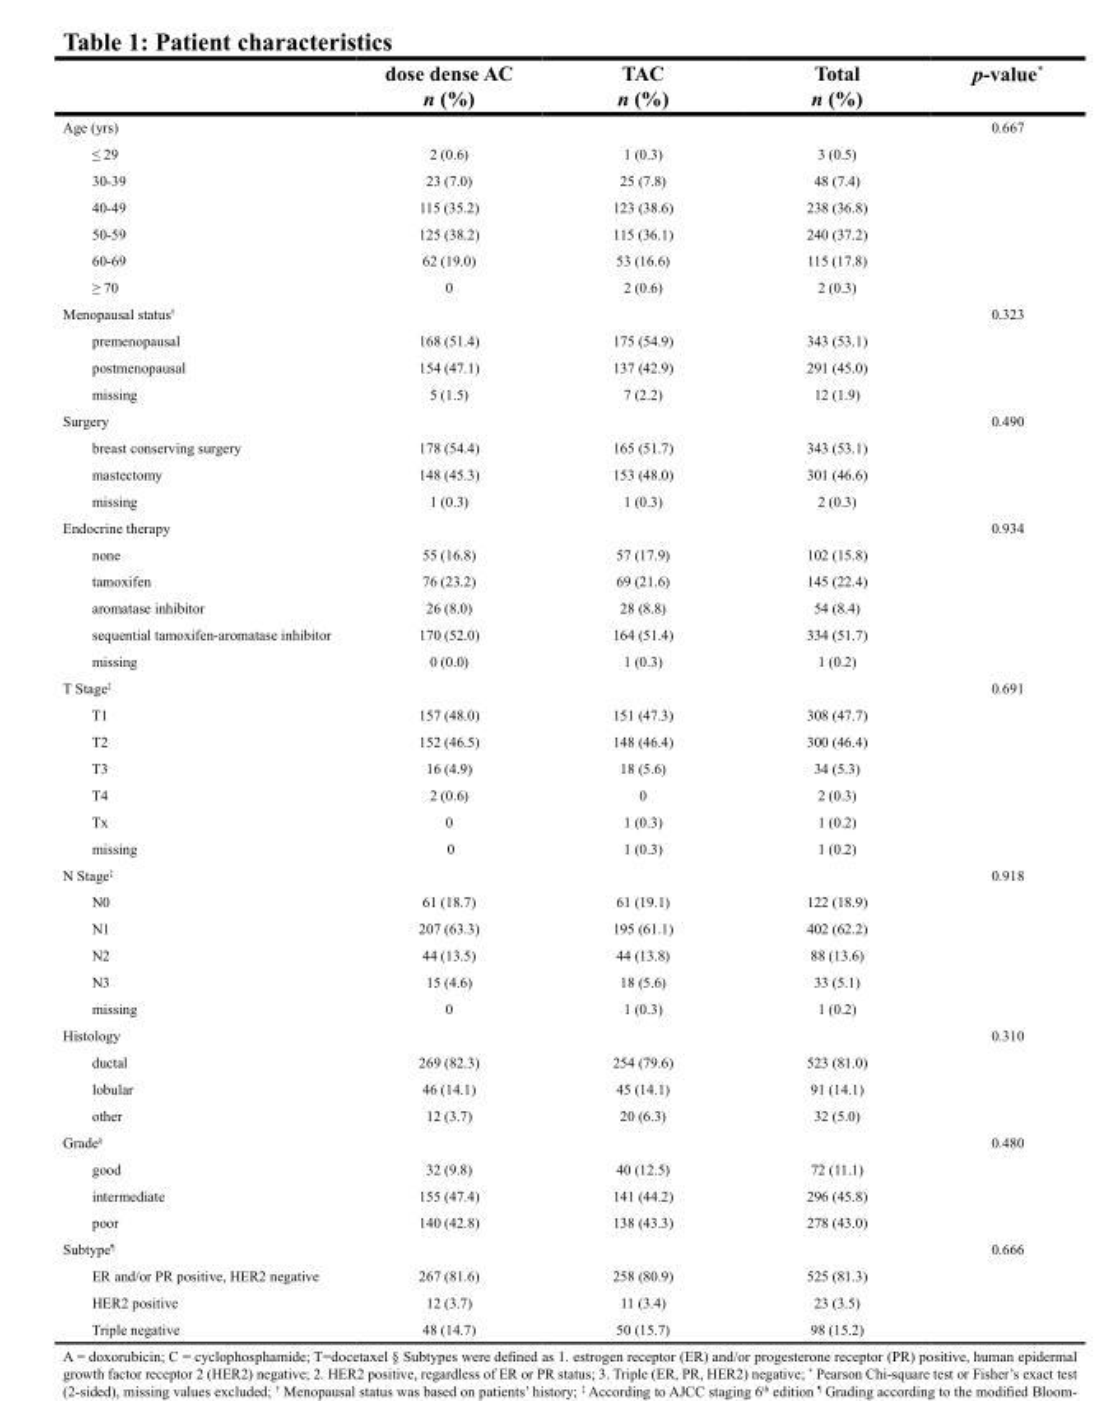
<table><thead><tr><td></td><td>dose dense AC n (%)</td><td>TAC n (%)</td><td>Total n (%)</td><td>p-value*</td></tr></thead><tbody><tr><td>Age (yrs)</td><td></td><td></td><td></td><td>0.667</td></tr><tr><td>≤ 29</td><td>2 (0.6)</td><td>1 (0.3)</td><td>3 (0.5)</td><td></td></tr><tr><td>30-39</td><td>23 (7.0)</td><td>25 (7.8)</td><td>48 (7.4)</td><td></td></tr><tr><td>40-49</td><td>115 (35.2)</td><td>123 (38.6)</td><td>238 (36.8)</td><td></td></tr><tr><td>50-59</td><td>125 (38.2)</td><td>115 (36.1)</td><td>240 (37.2)</td><td></td></tr><tr><td>60-69</td><td>62 (19.0)</td><td>53 (16.6)</td><td>115 (17.8)</td><td></td></tr><tr><td>≥ 70</td><td>0</td><td>2 (0.6)</td><td>2 (0.3)</td><td></td></tr><tr><td>Menopausal status<sup>†</sup></td><td></td><td></td><td></td><td>0.323</td></tr><tr><td>premenopausal</td><td>168 (51.4)</td><td>175 (54.9)</td><td>343 (53.1)</td><td></td></tr><tr><td>postmenopausal</td><td>154 (47.1)</td><td>137 (42.9)</td><td>291 (45.0)</td><td></td></tr><tr><td>missing</td><td>5 (1.5)</td><td>7 (2.2)</td><td>12 (1.9)</td><td></td></tr><tr><td>Surgery</td><td></td><td></td><td></td><td>0.490</td></tr><tr><td>breast conserving surgery</td><td>178 (54.4)</td><td>165 (51.7)</td><td>343 (53.1)</td><td></td></tr><tr><td>mastectomy</td><td>148 (45.3)</td><td>153 (48.0)</td><td>301 (46.6)</td><td></td></tr><tr><td>missing</td><td>1 (0.3)</td><td>1 (0.3)</td><td>2 (0.3)</td><td></td></tr><tr><td>Endocrine therapy</td><td></td><td></td><td></td><td>0.934</td></tr><tr><td>none</td><td>55 (16.8)</td><td>57 (17.9)</td><td>102 (15.8)</td><td></td></tr><tr><td>tamoxifen</td><td>76 (23.2)</td><td>69 (21.6)</td><td>145 (22.4)</td><td></td></tr><tr><td>aromatase inhibitor</td><td>26 (8.0)</td><td>28 (8.8)</td><td>54 (8.4)</td><td></td></tr><tr><td>sequential tamoxifen-aromatase inhibitor</td><td>170 (52.0)</td><td>164 (51.4)</td><td>334 (51.7)</td><td></td></tr><tr><td>missing</td><td>0 (0.0)</td><td>1 (0.3)</td><td>1 (0.2)</td><td></td></tr><tr><td>T Stage<sup>‡</sup></td><td></td><td></td><td></td><td>0.691</td></tr><tr><td>T1</td><td>157 (48.0)</td><td>151 (47.3)</td><td>308 (47.7)</td><td></td></tr><tr><td>T2</td><td>152 (46.5)</td><td>148 (46.4)</td><td>300 (46.4)</td><td></td></tr><tr><td>T3</td><td>16 (4.9)</td><td>18 (5.6)</td><td>34 (5.3)</td><td></td></tr><tr><td>T4</td><td>2 (0.6)</td><td>0</td><td>2 (0.3)</td><td></td></tr><tr><td>Tx</td><td>0</td><td>1 (0.3)</td><td>1 (0.2)</td><td></td></tr><tr><td>missing</td><td>0</td><td>1 (0.3)</td><td>1 (0.2)</td><td></td></tr><tr><td>N Stage<sup>‡</sup></td><td></td><td></td><td></td><td>0.918</td></tr><tr><td>N0</td><td>61 (18.7)</td><td>61 (19.1)</td><td>122 (18.9)</td><td></td></tr><tr><td>N1</td><td>207 (63.3)</td><td>195 (61.1)</td><td>402 (62.2)</td><td></td></tr><tr><td>N2</td><td>44 (13.5)</td><td>44 (13.8)</td><td>88 (13.6)</td><td></td></tr><tr><td>N3</td><td>15 (4.6)</td><td>18 (5.6)</td><td>33 (5.1)</td><td></td></tr><tr><td>missing</td><td>0</td><td>1 (0.3)</td><td>1 (0.2)</td><td></td></tr><tr><td>Histology</td><td></td><td></td><td></td><td>0.310</td></tr><tr><td>ductal</td><td>269 (82.3)</td><td>254 (79.6)</td><td>523 (81.0)</td><td></td></tr><tr><td>lobular</td><td>46 (14.1)</td><td>45 (14.1)</td><td>91 (14.1)</td><td></td></tr><tr><td>other</td><td>12 (3.7)</td><td>20 (6.3)</td><td>32 (5.0)</td><td></td></tr><tr><td>Grade<sup>§</sup></td><td></td><td></td><td></td><td>0.480</td></tr><tr><td>good</td><td>32 (9.8)</td><td>40 (12.5)</td><td>72 (11.1)</td><td></td></tr><tr><td>intermediate</td><td>155 (47.4)</td><td>141 (44.2)</td><td>296 (45.8)</td><td></td></tr><tr><td>poor</td><td>140 (42.8)</td><td>138 (43.3)</td><td>278 (43.0)</td><td></td></tr><tr><td>Subtype<sup>¶</sup></td><td></td><td></td><td></td><td>0.666</td></tr><tr><td>ER and/or PR positive, HER2 negative</td><td>267 (81.6)</td><td>258 (80.9)</td><td>525 (81.3)</td><td></td></tr><tr><td>HER2 positive</td><td>12 (3.7)</td><td>11 (3.4)</td><td>23 (3.5)</td><td></td></tr><tr><td>Triple negative</td><td>48 (14.7)</td><td>50 (15.7)</td><td>98 (15.2)</td><td></td></tr></tbody></table>